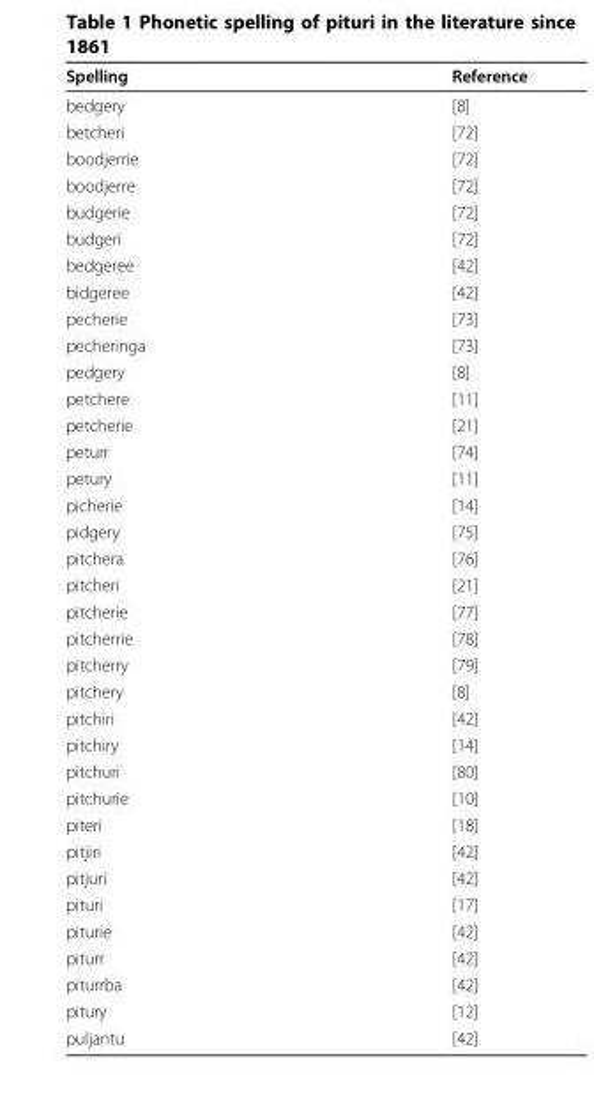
<table><thead><tr><td>Spelling</td><td>Reference</td></tr></thead><tbody><tr><td>bedgery</td><td>[8]</td></tr><tr><td>betcheri</td><td>[72]</td></tr><tr><td>boodjerrie</td><td>[72]</td></tr><tr><td>boodjerre</td><td>[72]</td></tr><tr><td>budgerie</td><td>[72]</td></tr><tr><td>budgeri</td><td>[72]</td></tr><tr><td>bedgeree</td><td>[42]</td></tr><tr><td>bidgeree</td><td>[42]</td></tr><tr><td>pecherie</td><td>[73]</td></tr><tr><td>pecheringa</td><td>[73]</td></tr><tr><td>pedgery</td><td>[8]</td></tr><tr><td>petchere</td><td>[11]</td></tr><tr><td>petcherie</td><td>[21]</td></tr><tr><td>peturr</td><td>[74]</td></tr><tr><td>petury</td><td>[11]</td></tr><tr><td>picherie</td><td>[14]</td></tr><tr><td>pidgery</td><td>[75]</td></tr><tr><td>pitchera</td><td>[76]</td></tr><tr><td>pitcheri</td><td>[21]</td></tr><tr><td>pitcherie</td><td>[77]</td></tr><tr><td>pitcherrie</td><td>[78]</td></tr><tr><td>pitcherry</td><td>[79]</td></tr><tr><td>pitchery</td><td>[8]</td></tr><tr><td>pitchiri</td><td>[42]</td></tr><tr><td>pitchiry</td><td>[14]</td></tr><tr><td>pitchuri</td><td>[80]</td></tr><tr><td>pitchurie</td><td>[10]</td></tr><tr><td>piteri</td><td>[18]</td></tr><tr><td>pitjiri</td><td>[42]</td></tr><tr><td>pitjuri</td><td>[42]</td></tr><tr><td>pituri</td><td>[17]</td></tr><tr><td>piturie</td><td>[42]</td></tr><tr><td>piturr</td><td>[42]</td></tr><tr><td>piturrba</td><td>[42]</td></tr><tr><td>pitury</td><td>[12]</td></tr><tr><td>puljantu</td><td>[42]</td></tr></tbody></table>